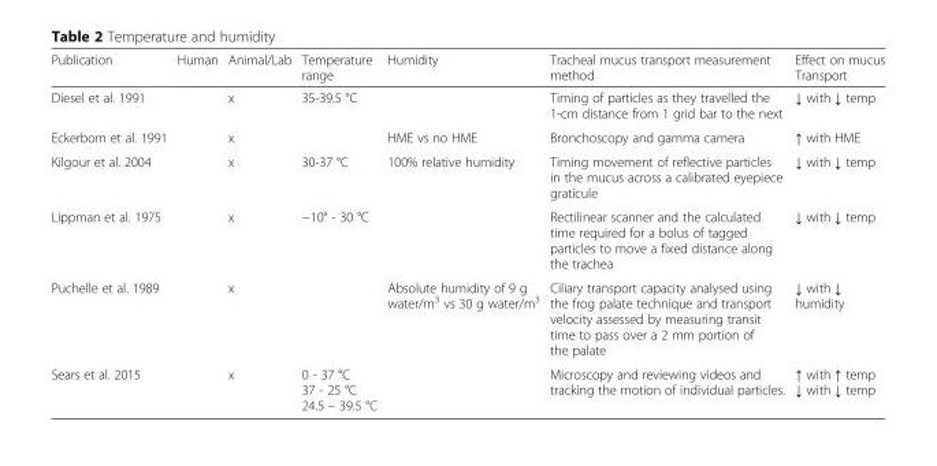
<table><thead><tr><td>Publication</td><td>Human</td><td>Animal/Lab</td><td>Temperature range</td><td>Humidity</td><td>Tracheal mucus transport measurement method</td><td>Effect on mucus Transport</td></tr></thead><tbody><tr><td>Diesel et al. 1991</td><td></td><td>x</td><td>35-39.5 °C</td><td></td><td>Timing of particles as they travelled the 1-cm distance from 1 grid bar to the next</td><td>↓ with ↓ temp</td></tr><tr><td>Eckerbom et al. 1991</td><td></td><td>x</td><td></td><td>HME vs no HME</td><td>Bronchoscopy and gamma camera</td><td>↑ with HME</td></tr><tr><td>Kilgour et al. 2004</td><td></td><td>x</td><td>30-37 °C</td><td>100% relative humidity</td><td>Timing movement of reflective particles in the mucus across a calibrated eyepiece graticule</td><td>↓ with ↓ temp</td></tr><tr><td>Lippman et al. 1975</td><td></td><td>x</td><td>−10° - 30 °C</td><td></td><td>Rectilinear scanner and the calculated time required for a bolus of tagged particles to move a fixed distance along the trachea</td><td>↓ with ↓ temp</td></tr><tr><td>Puchelle et al. 1989</td><td></td><td>x</td><td></td><td>Absolute humidity of 9 g water/m<sup>3</sup> vs 30 g water/m<sup>3</sup></td><td>Ciliary transport capacity analysed using the frog palate technique and transport velocity assessed by measuring transit time to pass over a 2 mm portion of the palate</td><td>↓ with ↓ humidity</td></tr><tr><td>Sears et al. 2015</td><td></td><td>x</td><td>0 - 37 °C 37 - 25 °C 24.5 – 39.5 °C</td><td></td><td>Microscopy and reviewing videos and tracking the motion of individual particles.</td><td>↑ with ↑ temp ↓ with ↓ temp</td></tr></tbody></table>